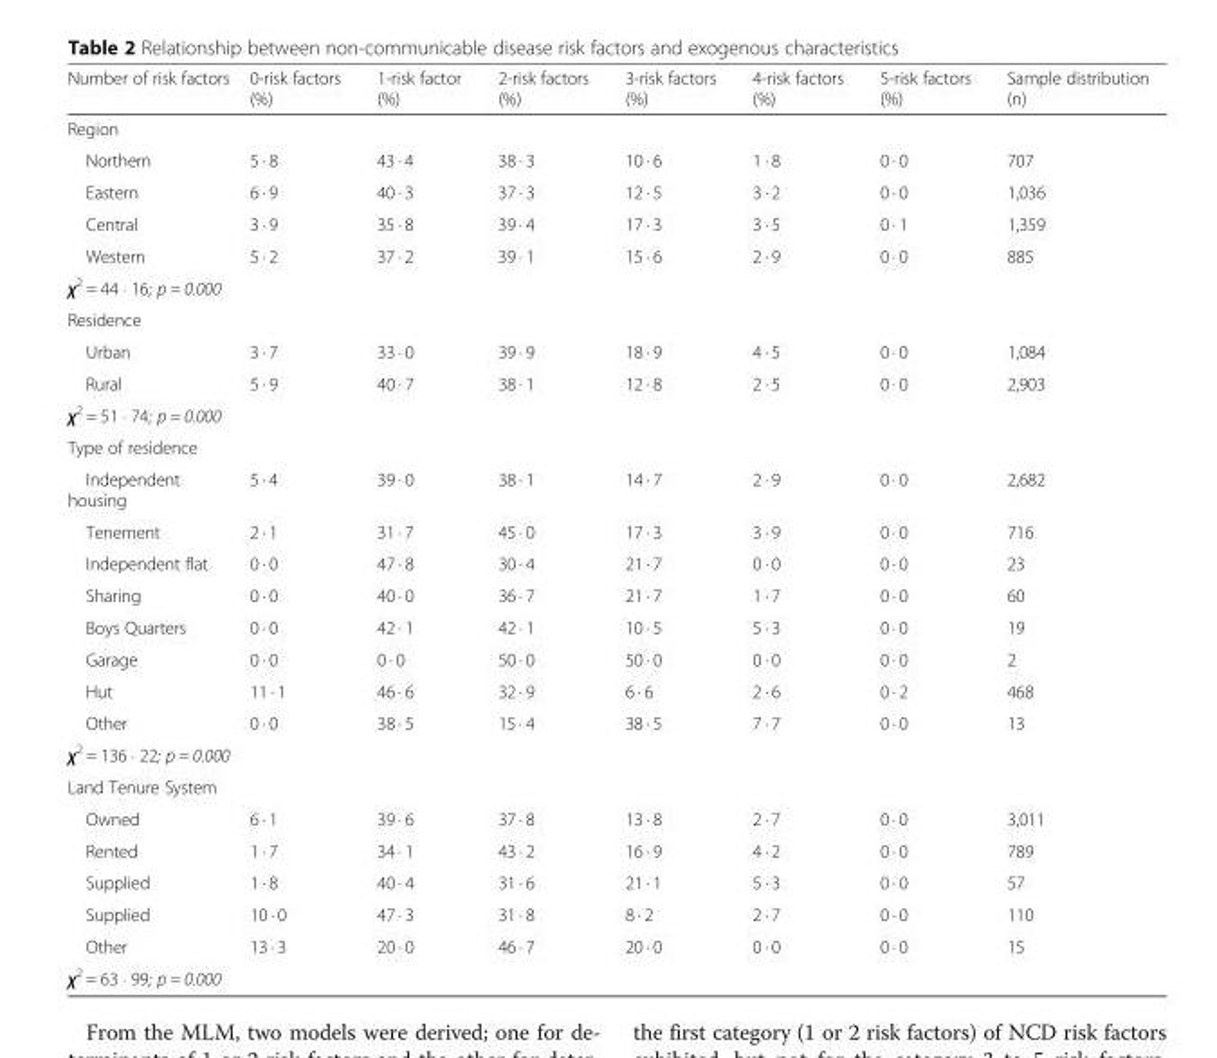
<table><thead><tr><td>Number of risk factors</td><td>0-risk factors (%)</td><td>1-risk factor (%)</td><td>2-risk factors (%)</td><td>3-risk factors (%)</td><td>4-risk factors (%)</td><td>5-risk factors (%)</td><td>Sample distribution (n)</td></tr></thead><tbody><tr><td colspan="8">Region</td></tr><tr><td>Northern</td><td>5 · 8</td><td>43 · 4</td><td>38 · 3</td><td>10 · 6</td><td>1 · 8</td><td>0 · 0</td><td>707</td></tr><tr><td>Eastern</td><td>6 · 9</td><td>40 · 3</td><td>37 · 3</td><td>12 · 5</td><td>3 · 2</td><td>0 · 0</td><td>1,036</td></tr><tr><td>Central</td><td>3 · 9</td><td>35 · 8</td><td>39 · 4</td><td>17 · 3</td><td>3 · 5</td><td>0 · 1</td><td>1,359</td></tr><tr><td>Western</td><td>5 · 2</td><td>37 · 2</td><td>39 · 1</td><td>15 · 6</td><td>2 · 9</td><td>0 · 0</td><td>885</td></tr><tr><td colspan="8">χ<sup>2</sup> = 44 ⋅ 16; p = 0.000</td></tr><tr><td colspan="8">Residence</td></tr><tr><td>Urban</td><td>3 · 7</td><td>33 · 0</td><td>39 · 9</td><td>18 · 9</td><td>4 · 5</td><td>0 · 0</td><td>1,084</td></tr><tr><td>Rural</td><td>5 · 9</td><td>40 · 7</td><td>38 · 1</td><td>12 · 8</td><td>2 · 5</td><td>0 · 0</td><td>2,903</td></tr><tr><td colspan="8">χ<sup>2</sup> = 51 ⋅ 74; p = 0.000</td></tr><tr><td colspan="8">Type of residence</td></tr><tr><td>Independent housing</td><td>5 · 4</td><td>39 · 0</td><td>38 · 1</td><td>14 · 7</td><td>2 · 9</td><td>0 · 0</td><td>2,682</td></tr><tr><td>Tenement</td><td>2 · 1</td><td>31 · 7</td><td>45 · 0</td><td>17 · 3</td><td>3 · 9</td><td>0 · 0</td><td>716</td></tr><tr><td>Independent flat</td><td>0 · 0</td><td>47 · 8</td><td>30 · 4</td><td>21 · 7</td><td>0 · 0</td><td>0 · 0</td><td>23</td></tr><tr><td>Sharing</td><td>0 · 0</td><td>40 · 0</td><td>36 · 7</td><td>21 · 7</td><td>1 · 7</td><td>0 · 0</td><td>60</td></tr><tr><td>Boys Quarters</td><td>0 · 0</td><td>42 · 1</td><td>42 · 1</td><td>10 · 5</td><td>5 · 3</td><td>0 · 0</td><td>19</td></tr><tr><td>Garage</td><td>0 · 0</td><td>0 · 0</td><td>50 · 0</td><td>50 · 0</td><td>0 · 0</td><td>0 · 0</td><td>2</td></tr><tr><td>Hut</td><td>11 · 1</td><td>46 · 6</td><td>32 · 9</td><td>6 · 6</td><td>2 · 6</td><td>0 · 2</td><td>468</td></tr><tr><td>Other</td><td>0 · 0</td><td>38 · 5</td><td>15 · 4</td><td>38 · 5</td><td>7 · 7</td><td>0 · 0</td><td>13</td></tr><tr><td colspan="8">χ<sup>2</sup> = 136 ⋅ 22; p = 0.000</td></tr><tr><td colspan="8">Land Tenure System</td></tr><tr><td>Owned</td><td>6 · 1</td><td>39 · 6</td><td>37 · 8</td><td>13 · 8</td><td>2 · 7</td><td>0 · 0</td><td>3,011</td></tr><tr><td>Rented</td><td>1 · 7</td><td>34 · 1</td><td>43 · 2</td><td>16 · 9</td><td>4 · 2</td><td>0 · 0</td><td>789</td></tr><tr><td>Supplied</td><td>1 · 8</td><td>40 · 4</td><td>31 · 6</td><td>21 · 1</td><td>5 · 3</td><td>0 · 0</td><td>57</td></tr><tr><td>Supplied</td><td>10 · 0</td><td>47 · 3</td><td>31 · 8</td><td>8 · 2</td><td>2 · 7</td><td>0 · 0</td><td>110</td></tr><tr><td>Other</td><td>13 · 3</td><td>20 · 0</td><td>46 · 7</td><td>20 · 0</td><td>0 · 0</td><td>0 · 0</td><td>15</td></tr><tr><td colspan="8">χ<sup>2</sup> = 63 ⋅ 99; p = 0.000</td></tr></tbody></table>